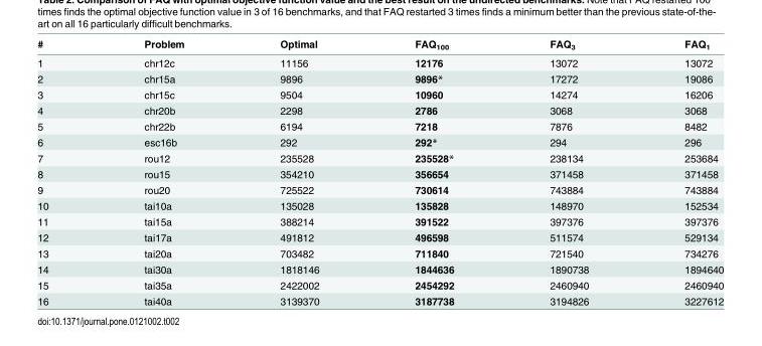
<table><thead><tr><td>#</td><td>Problem</td><td>Optimal</td><td>FAQ<sub>100</sub></td><td>FAQ<sub>3</sub></td><td>FAQ<sub>1</sub></td></tr></thead><tbody><tr><td>1</td><td>chr12c</td><td>11156</td><td>12176</td><td>13072</td><td>13072</td></tr><tr><td>2</td><td>chr15a</td><td>9896</td><td>9896*</td><td>17272</td><td>19086</td></tr><tr><td>3</td><td>chr15c</td><td>9504</td><td>10960</td><td>14274</td><td>16206</td></tr><tr><td>4</td><td>chr20b</td><td>2298</td><td>2786</td><td>3068</td><td>3068</td></tr><tr><td>5</td><td>chr22b</td><td>6194</td><td>7218</td><td>7876</td><td>8482</td></tr><tr><td>6</td><td>esc16b</td><td>292</td><td>292*</td><td>294</td><td>296</td></tr><tr><td>7</td><td>rou12</td><td>235528</td><td>235528*</td><td>238134</td><td>253684</td></tr><tr><td>8</td><td>rou15</td><td>354210</td><td>356654</td><td>371458</td><td>371458</td></tr><tr><td>9</td><td>rou20</td><td>725522</td><td>730614</td><td>743884</td><td>743884</td></tr><tr><td>10</td><td>tai10a</td><td>135028</td><td>135828</td><td>148970</td><td>152534</td></tr><tr><td>11</td><td>tai15a</td><td>388214</td><td>391522</td><td>397376</td><td>397376</td></tr><tr><td>12</td><td>tai17a</td><td>491812</td><td>496598</td><td>511574</td><td>529134</td></tr><tr><td>13</td><td>tai20a</td><td>703482</td><td>711840</td><td>721540</td><td>734276</td></tr><tr><td>14</td><td>tai30a</td><td>1818146</td><td>1844636</td><td>1890738</td><td>1894640</td></tr><tr><td>15</td><td>tai35a</td><td>2422002</td><td>2454292</td><td>2460940</td><td>2460940</td></tr><tr><td>16</td><td>tai40a</td><td>3139370</td><td>3187738</td><td>3194826</td><td>3227612</td></tr></tbody></table>